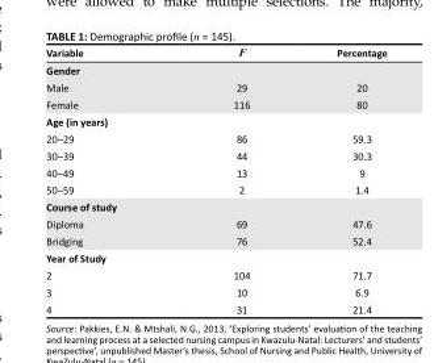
<table><thead><tr><td>Variable</td><td>F</td><td>Percentage</td></tr></thead><tbody><tr><td colspan="3">Gender</td></tr><tr><td>Male</td><td>29</td><td>20</td></tr><tr><td>Female</td><td>116</td><td>80</td></tr><tr><td colspan="3">Age (in years)</td></tr><tr><td>20–29</td><td>86</td><td>59.3</td></tr><tr><td>30–39</td><td>44</td><td>30.3</td></tr><tr><td>40–49</td><td>13</td><td>9</td></tr><tr><td>50–59</td><td>2</td><td>1.4</td></tr><tr><td colspan="3">Course of study</td></tr><tr><td>Diploma</td><td>69</td><td>47.6</td></tr><tr><td>Bridging</td><td>76</td><td>52.4</td></tr><tr><td colspan="3">Year of Study</td></tr><tr><td>2</td><td>104</td><td>71.7</td></tr><tr><td>3</td><td>10</td><td>6.9</td></tr><tr><td>4</td><td>31</td><td>21.4</td></tr></tbody></table>